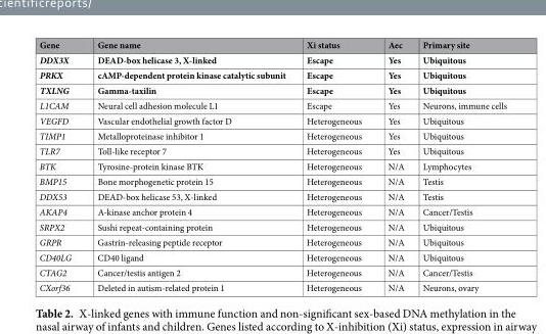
<table><thead><tr><td>Gene</td><td>Gene name</td><td>Xi status</td><td>Aec</td><td>Primary site</td></tr></thead><tbody><tr><td>DDX3X</td><td>DEAD-box helicase 3, X-linked</td><td>Escape</td><td>Yes</td><td>Ubiquitous</td></tr><tr><td>PRKX</td><td>cAMP-dependent protein kinase catalytic subunit</td><td>Escape</td><td>Yes</td><td>Ubiquitous</td></tr><tr><td>TXLNG</td><td>Gamma-taxilin</td><td>Escape</td><td>Yes</td><td>Ubiquitous</td></tr><tr><td>L1CAM</td><td>Neural cell adhesion molecule L1</td><td>Escape</td><td>Yes</td><td>Neurons, immune cells</td></tr><tr><td>VEGFD</td><td>Vascular endothelial growth factor D</td><td>Heterogeneous</td><td>Yes</td><td>Ubiquitous</td></tr><tr><td>TIMP1</td><td>Metalloproteinase inhibitor 1</td><td>Heterogeneous</td><td>Yes</td><td>Ubiquitous</td></tr><tr><td>TLR7</td><td>Toll-like receptor 7</td><td>Heterogeneous</td><td>Yes</td><td>Ubiquitous</td></tr><tr><td>BTK</td><td>Tyrosine-protein kinase BTK</td><td>Heterogeneous</td><td>N/A</td><td>Lymphocytes</td></tr><tr><td>BMP15</td><td>Bone morphogenetic protein 15</td><td>Heterogeneous</td><td>N/A</td><td>Testis</td></tr><tr><td>DDX53</td><td>DEAD-box helicase 53, X-linked</td><td>Heterogeneous</td><td>N/A</td><td>Testis</td></tr><tr><td>AKAP4</td><td>A-kinase anchor protein 4</td><td>Heterogeneous</td><td>N/A</td><td>Cancer/Testis</td></tr><tr><td>SRPX2</td><td>Sushi repeat-containing protein</td><td>Heterogeneous</td><td>N/A</td><td>Ubiquitous</td></tr><tr><td>GRPR</td><td>Gastrin-releasing peptide receptor</td><td>Heterogeneous</td><td>N/A</td><td>Ubiquitous</td></tr><tr><td>CD40LG</td><td>CD40 ligand</td><td>Heterogeneous</td><td>N/A</td><td>Ubiquitous</td></tr><tr><td>CTAG2</td><td>Cancer/testis antigen 2</td><td>Heterogeneous</td><td>N/A</td><td>Cancer/Testis</td></tr><tr><td>CXorf36</td><td>Deleted in autism-related protein 1</td><td>Heterogeneous</td><td>N/A</td><td>Neurons, ovary</td></tr></tbody></table>